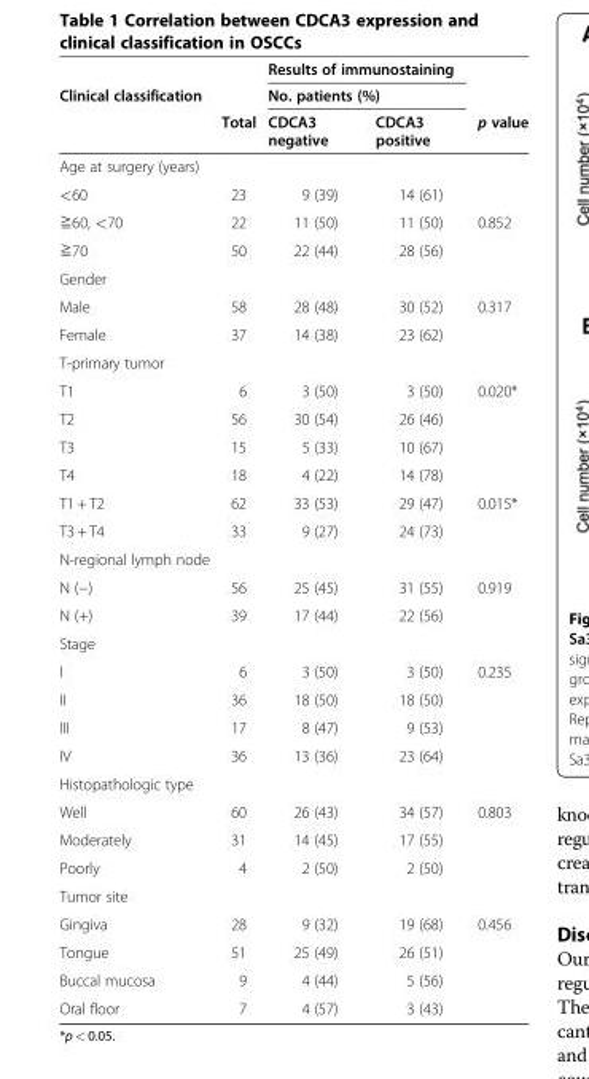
<table><thead><tr><td rowspan="3">Clinical classification</td><td rowspan="3">Total</td><td rowspan="2" colspan="2">Results of immunostaining No. patients (%)</td><td rowspan="3">p value</td></tr><tr></tr><tr><td>CDCA3 negative</td><td>CDCA3 positive</td></tr></thead><tbody><tr><td colspan="5">Age at surgery (years)</td></tr><tr><td>&lt;60</td><td>23</td><td>9 (39)</td><td>14 (61)</td><td></td></tr><tr><td>≧60, &lt;70</td><td>22</td><td>11 (50)</td><td>11 (50)</td><td>0.852</td></tr><tr><td>≧70</td><td>50</td><td>22 (44)</td><td>28 (56)</td><td></td></tr><tr><td colspan="5">Gender</td></tr><tr><td>Male</td><td>58</td><td>28 (48)</td><td>30 (52)</td><td>0.317</td></tr><tr><td>Female</td><td>37</td><td>14 (38)</td><td>23 (62)</td><td></td></tr><tr><td colspan="5">T-primary tumor</td></tr><tr><td>T1</td><td>6</td><td>3 (50)</td><td>3 (50)</td><td>0.020*</td></tr><tr><td>T2</td><td>56</td><td>30 (54)</td><td>26 (46)</td><td></td></tr><tr><td>T3</td><td>15</td><td>5 (33)</td><td>10 (67)</td><td></td></tr><tr><td>T4</td><td>18</td><td>4 (22)</td><td>14 (78)</td><td></td></tr><tr><td>T1 + T2</td><td>62</td><td>33 (53)</td><td>29 (47)</td><td>0.015*</td></tr><tr><td>T3 + T4</td><td>33</td><td>9 (27)</td><td>24 (73)</td><td></td></tr><tr><td colspan="5">N-regional lymph node</td></tr><tr><td>N (−)</td><td>56</td><td>25 (45)</td><td>31 (55)</td><td>0.919</td></tr><tr><td>N (+)</td><td>39</td><td>17 (44)</td><td>22 (56)</td><td></td></tr><tr><td colspan="5">Stage</td></tr><tr><td>I</td><td>6</td><td>3 (50)</td><td>3 (50)</td><td>0.235</td></tr><tr><td>II</td><td>36</td><td>18 (50)</td><td>18 (50)</td><td></td></tr><tr><td>III</td><td>17</td><td>8 (47)</td><td>9 (53)</td><td></td></tr><tr><td>IV</td><td>36</td><td>13 (36)</td><td>23 (64)</td><td></td></tr><tr><td colspan="5">Histopathologic type</td></tr><tr><td>Well</td><td>60</td><td>26 (43)</td><td>34 (57)</td><td>0.803</td></tr><tr><td>Moderately</td><td>31</td><td>14 (45)</td><td>17 (55)</td><td></td></tr><tr><td>Poorly</td><td>4</td><td>2 (50)</td><td>2 (50)</td><td></td></tr><tr><td colspan="5">Tumor site</td></tr><tr><td>Gingiva</td><td>28</td><td>9 (32)</td><td>19 (68)</td><td>0.456</td></tr><tr><td>Tongue</td><td>51</td><td>25 (49)</td><td>26 (51)</td><td></td></tr><tr><td>Buccal mucosa</td><td>9</td><td>4 (44)</td><td>5 (56)</td><td></td></tr><tr><td>Oral floor</td><td>7</td><td>4 (57)</td><td>3 (43)</td><td></td></tr></tbody></table>